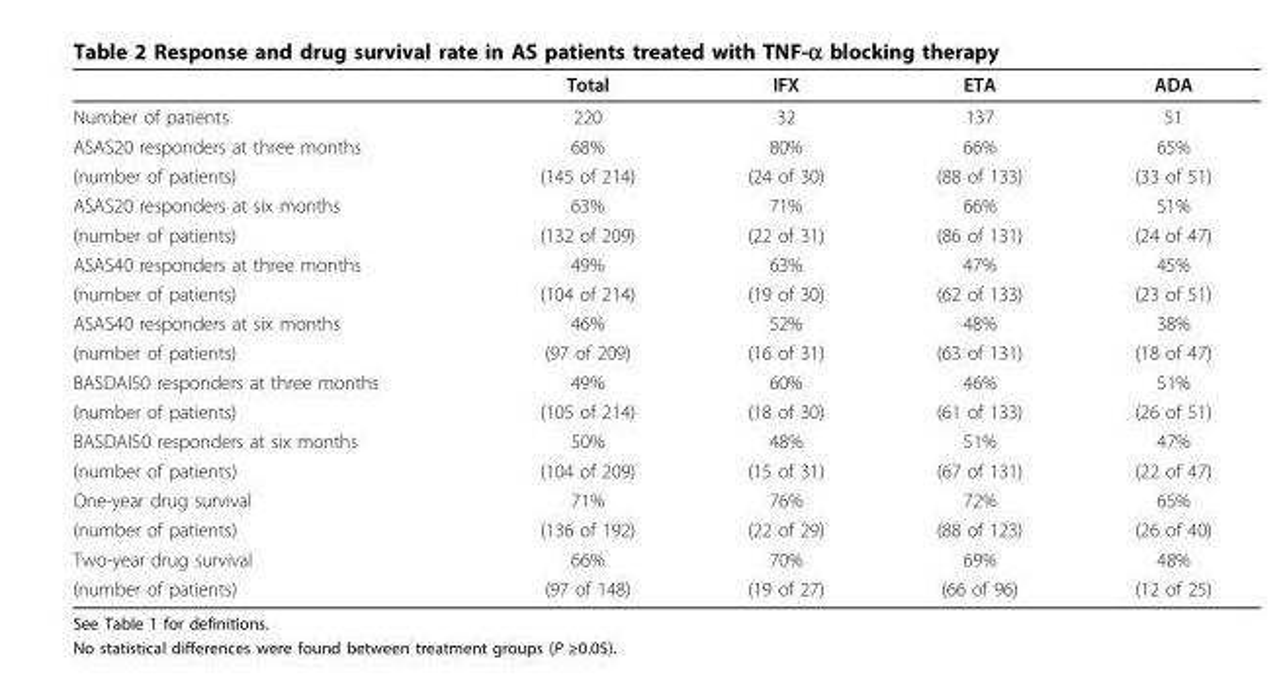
<table><thead><tr><td></td><td>Total</td><td>IFX</td><td>ETA</td><td>ADA</td></tr></thead><tbody><tr><td>Number of patients</td><td>220</td><td>32</td><td>137</td><td>51</td></tr><tr><td>ASAS20 responders at three months</td><td>68%</td><td>80%</td><td>66%</td><td>65%</td></tr><tr><td>(number of patients)</td><td>(145 of 214)</td><td>(24 of 30)</td><td>(88 of 133)</td><td>(33 of 51)</td></tr><tr><td>ASAS20 responders at six months</td><td>63%</td><td>71%</td><td>66%</td><td>51%</td></tr><tr><td>(number of patients)</td><td>(132 of 209)</td><td>(22 of 31)</td><td>(86 of 131)</td><td>(24 of 47)</td></tr><tr><td>ASAS40 responders at three months</td><td>49%</td><td>63%</td><td>47%</td><td>45%</td></tr><tr><td>(number of patients)</td><td>(104 of 214)</td><td>(19 of 30)</td><td>(62 of 133)</td><td>(23 of 51)</td></tr><tr><td>ASAS40 responders at six months</td><td>46%</td><td>52%</td><td>48%</td><td>38%</td></tr><tr><td>(number of patients)</td><td>(97 of 209)</td><td>(16 of 31)</td><td>(63 of 131)</td><td>(18 of 47)</td></tr><tr><td>BASDAI50 responders at three months</td><td>49%</td><td>60%</td><td>46%</td><td>51%</td></tr><tr><td>(number of patients)</td><td>(105 of 214)</td><td>(18 of 30)</td><td>(61 of 133)</td><td>(26 of 51)</td></tr><tr><td>BASDAI50 responders at six months</td><td>50%</td><td>48%</td><td>51%</td><td>47%</td></tr><tr><td>(number of patients)</td><td>(104 of 209)</td><td>(15 of 31)</td><td>(67 of 131)</td><td>(22 of 47)</td></tr><tr><td>One-year drug survival</td><td>71%</td><td>76%</td><td>72%</td><td>65%</td></tr><tr><td>(number of patients)</td><td>(136 of 192)</td><td>(22 of 29)</td><td>(88 of 123)</td><td>(26 of 40)</td></tr><tr><td>Two-year drug survival</td><td>66%</td><td>70%</td><td>69%</td><td>48%</td></tr><tr><td>(number of patients)</td><td>(97 of 148)</td><td>(19 of 27)</td><td>(66 of 96)</td><td>(12 of 25)</td></tr></tbody></table>